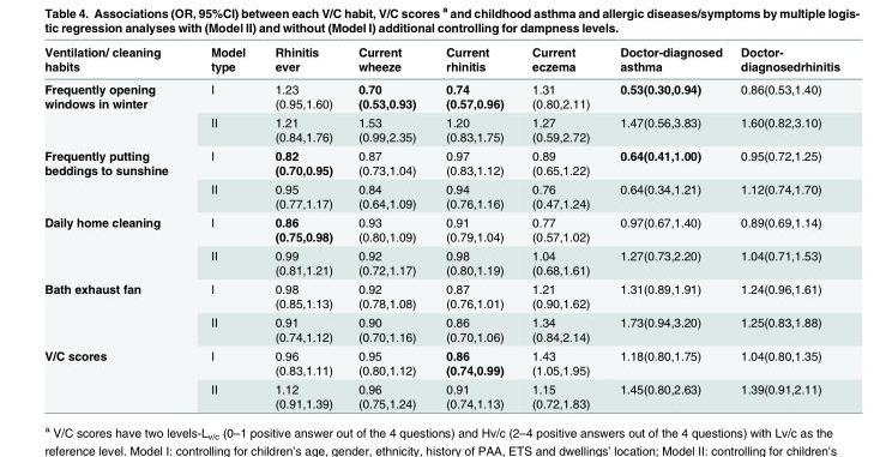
<table><thead><tr><td>Ventilation/ cleaning habits</td><td>Model type</td><td>Rhinitis ever</td><td>Current wheeze</td><td>Current rhinitis</td><td>Current eczema</td><td>Doctor-diagnosed asthma</td><td>Doctor- diagnosedrhinitis</td></tr></thead><tbody><tr><td rowspan="2">Frequently opening windows in winter</td><td>I</td><td>1.23 (0.95,1.60)</td><td>0.70 (0.53,0.93)</td><td>0.74 (0.57,0.96)</td><td>1.31 (0.80,2.11)</td><td>0.53(0.30,0.94)</td><td>0.86(0.53,1.40)</td></tr><tr><td>II</td><td>1.21 (0.84,1.76)</td><td>1.53 (0.99,2.35)</td><td>1.20 (0.83,1.75)</td><td>1.27 (0.59,2.72)</td><td>1.47(0.56,3.83)</td><td>1.60(0.82,3.10)</td></tr><tr><td rowspan="2">Frequently putting beddings to sunshine</td><td>I</td><td>0.82 (0.70,0.95)</td><td>0.87 (0.73,1.04)</td><td>0.97 (0.83,1.12)</td><td>0.89 (0.65,1.22)</td><td>0.64(0.41,1.00)</td><td>0.95(0.72,1.25)</td></tr><tr><td>II</td><td>0.95 (0.77,1.17)</td><td>0.84 (0.64,1.09)</td><td>0.94 (0.76,1.16)</td><td>0.76 (0.47,1.24)</td><td>0.64(0.34,1.21)</td><td>1.12(0.74,1.70)</td></tr><tr><td rowspan="2">Daily home cleaning</td><td>I</td><td>0.86 (0.75,0.98)</td><td>0.93 (0.80,1.09)</td><td>0.91 (0.79,1.04)</td><td>0.77 (0.57,1.02)</td><td>0.97(0.67,1.40)</td><td>0.89(0.69,1.14)</td></tr><tr><td>II</td><td>0.99 (0.81,1.21)</td><td>0.92 (0.72,1.17)</td><td>0.98 (0.80,1.19)</td><td>1.04 (0.68,1.61)</td><td>1.27(0.73,2.20)</td><td>1.04(0.71,1.53)</td></tr><tr><td rowspan="2">Bath exhaust fan</td><td>I</td><td>0.98 (0.85,1.13)</td><td>0.92 (0.78,1.08)</td><td>0.87 (0.76,1.01)</td><td>1.21 (0.90,1.62)</td><td>1.31(0.89,1.91)</td><td>1.24(0.96,1.61)</td></tr><tr><td>II</td><td>0.91 (0.74,1.12)</td><td>0.90 (0.70,1.16)</td><td>0.86 (0.70,1.06)</td><td>1.34 (0.84,2.14)</td><td>1.73(0.94,3.20)</td><td>1.25(0.83,1.88)</td></tr><tr><td rowspan="2">V/C scores</td><td>I</td><td>0.96 (0.83,1.11)</td><td>0.95 (0.80,1.12)</td><td>0.86 (0.74,0.99)</td><td>1.43 (1.05,1.95)</td><td>1.18(0.80,1.75)</td><td>1.04(0.80,1.35)</td></tr><tr><td>II</td><td>1.12 (0.91,1.39)</td><td>0.96 (0.75,1.24)</td><td>0.91 (0.74,1.13)</td><td>1.15 (0.72,1.83)</td><td>1.45(0.80,2.63)</td><td>1.39(0.91,2.11)</td></tr></tbody></table>